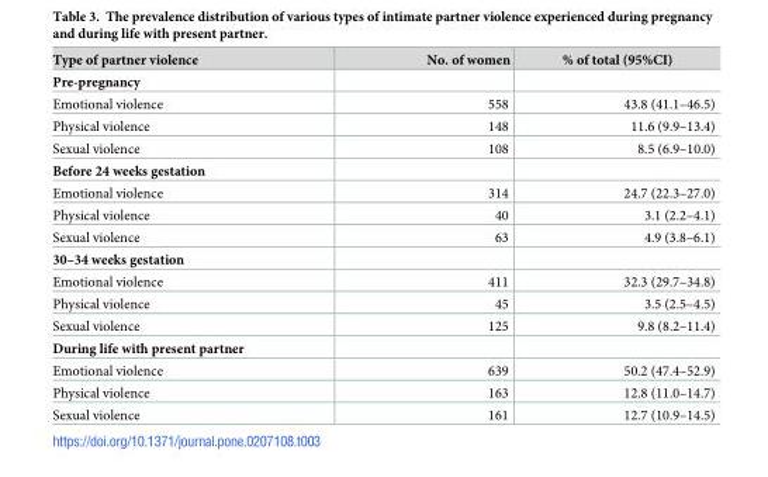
<table><thead><tr><td>Type of partner violence</td><td>No. of women</td><td>% of total (95%CI)</td></tr></thead><tbody><tr><td colspan="3">Pre-pregnancy</td></tr><tr><td>Emotional violence</td><td>558</td><td>43.8 (41.1–46.5)</td></tr><tr><td>Physical violence</td><td>148</td><td>11.6 (9.9–13.4)</td></tr><tr><td>Sexual violence</td><td>108</td><td>8.5 (6.9–10.0)</td></tr><tr><td colspan="3">Before 24 weeks gestation</td></tr><tr><td>Emotional violence</td><td>314</td><td>24.7 (22.3–27.0)</td></tr><tr><td>Physical violence</td><td>40</td><td>3.1 (2.2–4.1)</td></tr><tr><td>Sexual violence</td><td>63</td><td>4.9 (3.8–6.1)</td></tr><tr><td colspan="3">30–34 weeks gestation</td></tr><tr><td>Emotional violence</td><td>411</td><td>32.3 (29.7–34.8)</td></tr><tr><td>Physical violence</td><td>45</td><td>3.5 (2.5–4.5)</td></tr><tr><td>Sexual violence</td><td>125</td><td>9.8 (8.2–11.4)</td></tr><tr><td colspan="3">During life with present partner</td></tr><tr><td>Emotional violence</td><td>639</td><td>50.2 (47.4–52.9)</td></tr><tr><td>Physical violence</td><td>163</td><td>12.8 (11.0–14.7)</td></tr><tr><td>Sexual violence</td><td>161</td><td>12.7 (10.9–14.5)</td></tr></tbody></table>